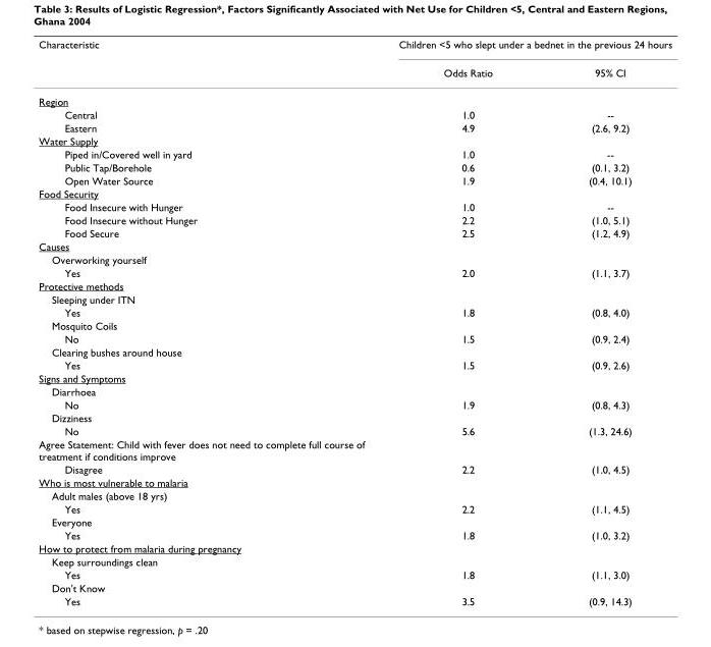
<table><thead><tr><td rowspan="2">Characteristic</td><td colspan="2">Children &lt;5 who slept under a bednet in the previous 24 hours</td></tr><tr><td>Odds Ratio</td><td>95% CI</td></tr></thead><tbody><tr><td colspan="3">Region</td></tr><tr><td>Central</td><td>1.0</td><td>--</td></tr><tr><td>Eastern</td><td>4.9</td><td>(2.6, 9.2)</td></tr><tr><td colspan="3">Water Supply</td></tr><tr><td>Piped in/Covered well in yard</td><td>1.0</td><td>--</td></tr><tr><td>Public Tap/Borehole</td><td>0.6</td><td>(0.1, 3.2)</td></tr><tr><td>Open Water Source</td><td>1.9</td><td>(0.4, 10.1)</td></tr><tr><td colspan="3">Food Security</td></tr><tr><td>Food Insecure with Hunger</td><td>1.0</td><td>--</td></tr><tr><td>Food Insecure without Hunger</td><td>2.2</td><td>(1.0, 5.1)</td></tr><tr><td>Food Secure</td><td>2.5</td><td>(1.2, 4.9)</td></tr><tr><td colspan="3">Causes</td></tr><tr><td colspan="3">Overworking yourself</td></tr><tr><td>Yes</td><td>2.0</td><td>(1.1, 3.7)</td></tr><tr><td colspan="3">Protective methods</td></tr><tr><td colspan="3">Sleeping under ITN</td></tr><tr><td>Yes</td><td>1.8</td><td>(0.8, 4.0)</td></tr><tr><td colspan="3">Mosquito Coils</td></tr><tr><td>No</td><td>1.5</td><td>(0.9, 2.4)</td></tr><tr><td colspan="3">Clearing bushes around house</td></tr><tr><td>Yes</td><td>1.5</td><td>(0.9, 2.6)</td></tr><tr><td colspan="3">Signs and Symptoms</td></tr><tr><td colspan="3">Diarrhoea</td></tr><tr><td>No</td><td>1.9</td><td>(0.8, 4.3)</td></tr><tr><td colspan="3">Dizziness</td></tr><tr><td>No</td><td>5.6</td><td>(1.3, 24.6)</td></tr><tr><td colspan="3">Agree Statement: Child with fever does not need to complete full course of treatment if conditions improve</td></tr><tr><td>Disagree</td><td>2.2</td><td>(1.0, 4.5)</td></tr><tr><td colspan="3">Who is most vulnerable to malaria</td></tr><tr><td colspan="3">Adult males (above 18 yrs)</td></tr><tr><td>Yes</td><td>2.2</td><td>(1.1, 4.5)</td></tr><tr><td colspan="3">Everyone</td></tr><tr><td>Yes</td><td>1.8</td><td>(1.0, 3.2)</td></tr><tr><td colspan="3">How to protect from malaria during pregnancy</td></tr><tr><td colspan="3">Keep surroundings clean</td></tr><tr><td>Yes</td><td>1.8</td><td>(1.1, 3.0)</td></tr><tr><td colspan="3">Don&#x27;t Know</td></tr><tr><td>Yes</td><td>3.5</td><td>(0.9, 14.3)</td></tr></tbody></table>